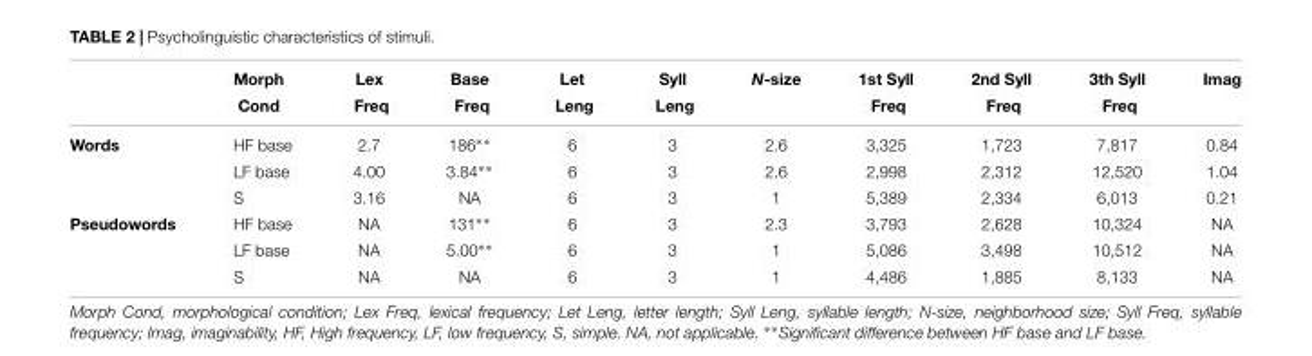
<table><thead><tr><td rowspan="2"></td><td rowspan="2">Morph Cond</td><td rowspan="2">Lex Freq</td><td rowspan="2">Base Freq</td><td rowspan="2">Let Leng</td><td rowspan="2">Syll Leng</td><td rowspan="2">N-size</td><td rowspan="2">1st Syll Freq</td><td rowspan="2">2nd Syll Freq</td><td rowspan="2">3th Syll Freq</td><td rowspan="2">Imag</td></tr><tr></tr></thead><tbody><tr><td rowspan="3">Words</td><td>HF base</td><td>2.7</td><td>186∗∗</td><td>6</td><td>3</td><td>2.6</td><td>3,325</td><td>1,723</td><td>7,817</td><td>0.84</td></tr><tr><td>LF base</td><td>4.00</td><td>3.84∗∗</td><td>6</td><td>3</td><td>2.6</td><td>2,998</td><td>2,312</td><td>12,520</td><td>1.04</td></tr><tr><td>S</td><td>3.16</td><td>NA</td><td>6</td><td>3</td><td>1</td><td>5,389</td><td>2,334</td><td>6,013</td><td>0.21</td></tr><tr><td rowspan="3">Pseudowords</td><td>HF base</td><td>NA</td><td>131∗∗</td><td>6</td><td>3</td><td>2.3</td><td>3,793</td><td>2,628</td><td>10,324</td><td>NA</td></tr><tr><td>LF base</td><td>NA</td><td>5.00∗∗</td><td>6</td><td>3</td><td>1</td><td>5,086</td><td>3,498</td><td>10,512</td><td>NA</td></tr><tr><td>S</td><td>NA</td><td>NA</td><td>6</td><td>3</td><td>1</td><td>4,486</td><td>1,885</td><td>8,133</td><td>NA</td></tr></tbody></table>